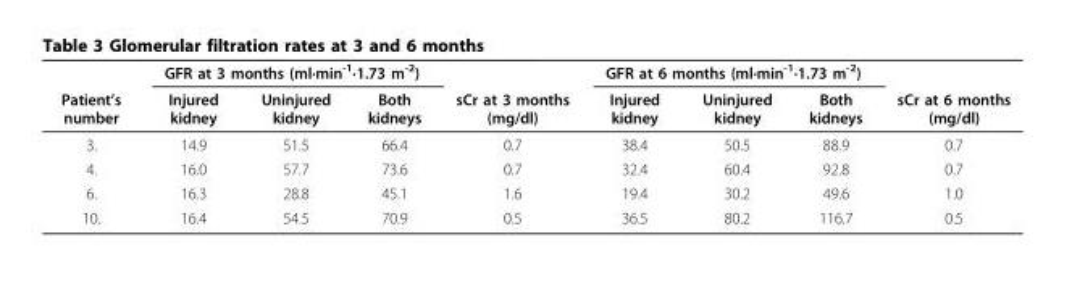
<table><thead><tr><td rowspan="2">Patient’s number</td><td colspan="3">GFR at 3 months (ml·min<sup>-1</sup>·1.73 m<sup>-2</sup>)</td><td rowspan="2">sCr at 3 months (mg/dl)</td><td colspan="3">GFR at 6 months (ml·min<sup>-1</sup>·1.73 m<sup>-2</sup>)</td><td rowspan="2">sCr at 6 months (mg/dl)</td></tr><tr><td>Injured kidney</td><td>Uninjured kidney</td><td>Both kidneys</td><td>Injured kidney</td><td>Uninjured kidney</td><td>Both kidneys</td></tr></thead><tbody><tr><td>3.</td><td>14.9</td><td>51.5</td><td>66.4</td><td>0.7</td><td>38.4</td><td>50.5</td><td>88.9</td><td>0.7</td></tr><tr><td>4.</td><td>16.0</td><td>57.7</td><td>73.6</td><td>0.7</td><td>32.4</td><td>60.4</td><td>92.8</td><td>0.7</td></tr><tr><td>6.</td><td>16.3</td><td>28.8</td><td>45.1</td><td>1.6</td><td>19.4</td><td>30.2</td><td>49.6</td><td>1.0</td></tr><tr><td>10.</td><td>16.4</td><td>54.5</td><td>70.9</td><td>0.5</td><td>36.5</td><td>80.2</td><td>116.7</td><td>0.5</td></tr></tbody></table>